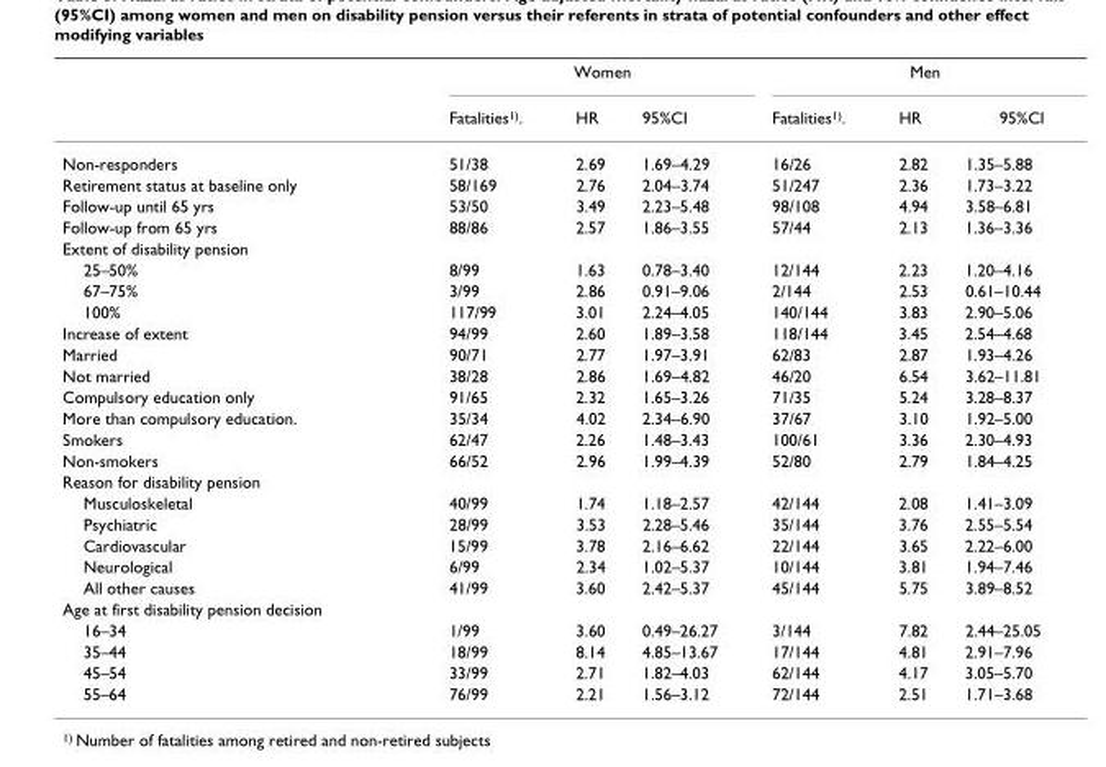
<table><thead><tr><td rowspan="2"></td><td colspan="3">Women</td><td colspan="3">Men</td></tr><tr><td>Fatalities1).</td><td>HR</td><td>95%CI</td><td>Fatalities1).</td><td>HR</td><td>95%CI</td></tr></thead><tbody><tr><td>Non-responders</td><td>51/38</td><td>2.69</td><td>1.69–4.29</td><td>16/26</td><td>2.82</td><td>1.35–5.88</td></tr><tr><td>Retirement status at baseline only</td><td>58/169</td><td>2.76</td><td>2.04–3.74</td><td>51/247</td><td>2.36</td><td>1.73–3.22</td></tr><tr><td>Follow-up until 65 yrs</td><td>53/50</td><td>3.49</td><td>2.23–5.48</td><td>98/108</td><td>4.94</td><td>3.58–6.81</td></tr><tr><td>Follow-up from 65 yrs</td><td>88/86</td><td>2.57</td><td>1.86–3.55</td><td>57/44</td><td>2.13</td><td>1.36–3.36</td></tr><tr><td colspan="7">Extent of disability pension</td></tr><tr><td>25–50%</td><td>8/99</td><td>1.63</td><td>0.78–3.40</td><td>12/144</td><td>2.23</td><td>1.20–4.16</td></tr><tr><td>67–75%</td><td>3/99</td><td>2.86</td><td>0.91–9.06</td><td>2/144</td><td>2.53</td><td>0.61–10.44</td></tr><tr><td>100%</td><td>117/99</td><td>3.01</td><td>2.24–4.05</td><td>140/144</td><td>3.83</td><td>2.90–5.06</td></tr><tr><td>Increase of extent</td><td>94/99</td><td>2.60</td><td>1.89–3.58</td><td>118/144</td><td>3.45</td><td>2.54–4.68</td></tr><tr><td>Married</td><td>90/71</td><td>2.77</td><td>1.97–3.91</td><td>62/83</td><td>2.87</td><td>1.93–4.26</td></tr><tr><td>Not married</td><td>38/28</td><td>2.86</td><td>1.69–4.82</td><td>46/20</td><td>6.54</td><td>3.62–11.81</td></tr><tr><td>Compulsory education only</td><td>91/65</td><td>2.32</td><td>1.65–3.26</td><td>71/35</td><td>5.24</td><td>3.28–8.37</td></tr><tr><td>More than compulsory education.</td><td>35/34</td><td>4.02</td><td>2.34–6.90</td><td>37/67</td><td>3.10</td><td>1.92–5.00</td></tr><tr><td>Smokers</td><td>62/47</td><td>2.26</td><td>1.48–3.43</td><td>100/61</td><td>3.36</td><td>2.30–4.93</td></tr><tr><td>Non-smokers</td><td>66/52</td><td>2.96</td><td>1.99–4.39</td><td>52/80</td><td>2.79</td><td>1.84–4.25</td></tr><tr><td colspan="7">Reason for disability pension</td></tr><tr><td>Musculoskeletal</td><td>40/99</td><td>1.74</td><td>1.18–2.57</td><td>42/144</td><td>2.08</td><td>1.41–3.09</td></tr><tr><td>Psychiatric</td><td>28/99</td><td>3.53</td><td>2.28–5.46</td><td>35/144</td><td>3.76</td><td>2.55–5.54</td></tr><tr><td>Cardiovascular</td><td>15/99</td><td>3.78</td><td>2.16–6.62</td><td>22/144</td><td>3.65</td><td>2.22–6.00</td></tr><tr><td>Neurological</td><td>6/99</td><td>2.34</td><td>1.02–5.37</td><td>10/144</td><td>3.81</td><td>1.94–7.46</td></tr><tr><td>All other causes</td><td>41/99</td><td>3.60</td><td>2.42–5.37</td><td>45/144</td><td>5.75</td><td>3.89–8.52</td></tr><tr><td colspan="7">Age at first disability pension decision</td></tr><tr><td>16–34</td><td>1/99</td><td>3.60</td><td>0.49–26.27</td><td>3/144</td><td>7.82</td><td>2.44–25.05</td></tr><tr><td>35–44</td><td>18/99</td><td>8.14</td><td>4.85–13.67</td><td>17/144</td><td>4.81</td><td>2.91–7.96</td></tr><tr><td>45–54</td><td>33/99</td><td>2.71</td><td>1.82–4.03</td><td>62/144</td><td>4.17</td><td>3.05–5.70</td></tr><tr><td>55–64</td><td>76/99</td><td>2.21</td><td>1.56–3.12</td><td>72/144</td><td>2.51</td><td>1.71–3.68</td></tr></tbody></table>